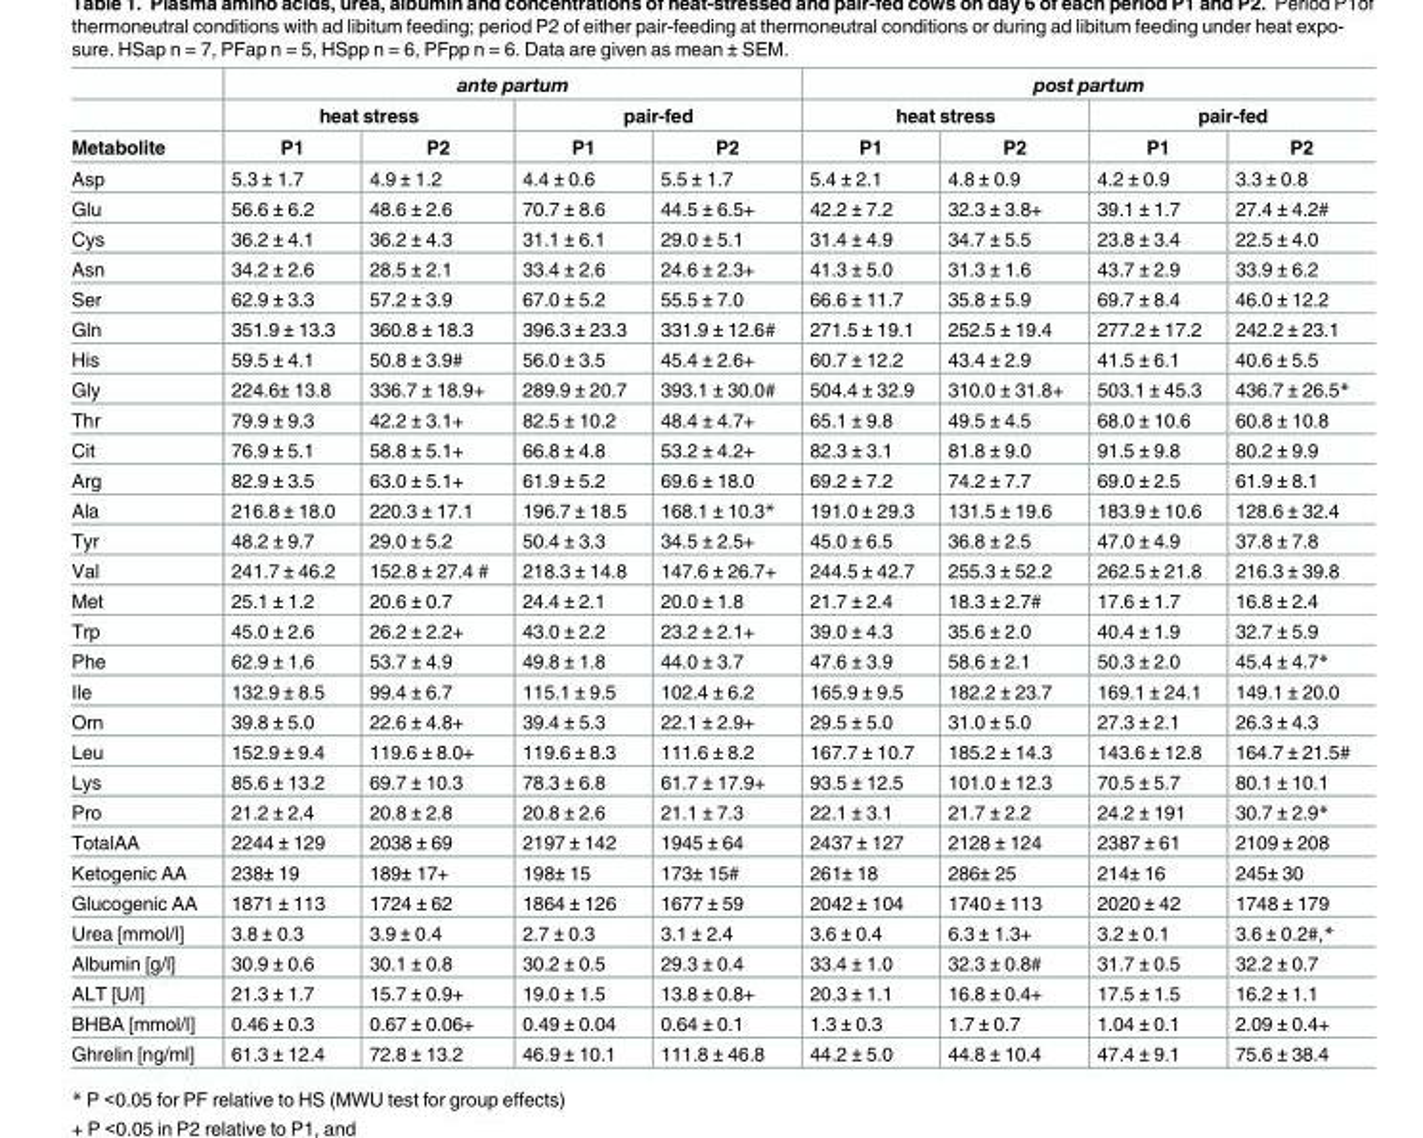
<table><thead><tr><td rowspan="3">Metabolite</td><td colspan="4">ante partum</td><td colspan="4">post partum</td></tr><tr><td colspan="2">heat stress</td><td colspan="2">pair-fed</td><td colspan="2">heat stress</td><td colspan="2">pair-fed</td></tr><tr><td>P1</td><td>P2</td><td>P1</td><td>P2</td><td>P1</td><td>P2</td><td>P1</td><td>P2</td></tr></thead><tbody><tr><td>Asp</td><td>5.3 ± 1.7</td><td>4.9 ± 1.2</td><td>4.4 ± 0.6</td><td>5.5 ± 1.7</td><td>5.4 ± 2.1</td><td>4.8 ± 0.9</td><td>4.2 ± 0.9</td><td>3.3 ± 0.8</td></tr><tr><td>Glu</td><td>56.6 ± 6.2</td><td>48.6 ± 2.6</td><td>70.7 ± 8.6</td><td>44.5 ± 6.5+</td><td>42.2 ± 7.2</td><td>32.3 ± 3.8+</td><td>39.1 ± 1.7</td><td>27.4 ± 4.2#</td></tr><tr><td>Cys</td><td>36.2 ± 4.1</td><td>36.2 ± 4.3</td><td>31.1 ± 6.1</td><td>29.0 ± 5.1</td><td>31.4 ± 4.9</td><td>34.7 ± 5.5</td><td>23.8 ± 3.4</td><td>22.5 ± 4.0</td></tr><tr><td>Asn</td><td>34.2 ± 2.6</td><td>28.5 ± 2.1</td><td>33.4 ± 2.6</td><td>24.6 ± 2.3+</td><td>41.3 ± 5.0</td><td>31.3 ± 1.6</td><td>43.7 ± 2.9</td><td>33.9 ± 6.2</td></tr><tr><td>Ser</td><td>62.9 ± 3.3</td><td>57.2 ± 3.9</td><td>67.0 ± 5.2</td><td>55.5 ± 7.0</td><td>66.6 ± 11.7</td><td>35.8 ± 5.9</td><td>69.7 ± 8.4</td><td>46.0 ± 12.2</td></tr><tr><td>Gln</td><td>351.9 ± 13.3</td><td>360.8 ± 18.3</td><td>396.3 ± 23.3</td><td>331.9 ± 12.6#</td><td>271.5 ± 19.1</td><td>252.5 ± 19.4</td><td>277.2 ± 17.2</td><td>242.2 ± 23.1</td></tr><tr><td>His</td><td>59.5 ± 4.1</td><td>50.8 ± 3.9#</td><td>56.0 ± 3.5</td><td>45.4 ± 2.6+</td><td>60.7 ± 12.2</td><td>43.4 ± 2.9</td><td>41.5 ± 6.1</td><td>40.6 ± 5.5</td></tr><tr><td>Gly</td><td>224.6± 13.8</td><td>336.7 ± 18.9+</td><td>289.9 ± 20.7</td><td>393.1 ± 30.0#</td><td>504.4 ± 32.9</td><td>310.0 ± 31.8+</td><td>503.1 ± 45.3</td><td>436.7 ± 26.5*</td></tr><tr><td>Thr</td><td>79.9 ± 9.3</td><td>42.2 ± 3.1+</td><td>82.5 ± 10.2</td><td>48.4 ± 4.7+</td><td>65.1 ± 9.8</td><td>49.5 ± 4.5</td><td>68.0 ± 10.6</td><td>60.8 ± 10.8</td></tr><tr><td>Cit</td><td>76.9 ± 5.1</td><td>58.8 ± 5.1+</td><td>66.8 ± 4.8</td><td>53.2 ± 4.2+</td><td>82.3 ± 3.1</td><td>81.8 ± 9.0</td><td>91.5 ± 9.8</td><td>80.2 ± 9.9</td></tr><tr><td>Arg</td><td>82.9 ± 3.5</td><td>63.0 ± 5.1+</td><td>61.9 ± 5.2</td><td>69.6 ± 18.0</td><td>69.2 ± 7.2</td><td>74.2 ± 7.7</td><td>69.0 ± 2.5</td><td>61.9 ± 8.1</td></tr><tr><td>Ala</td><td>216.8 ± 18.0</td><td>220.3 ± 17.1</td><td>196.7 ± 18.5</td><td>168.1 ± 10.3*</td><td>191.0 ± 29.3</td><td>131.5 ± 19.6</td><td>183.9 ± 10.6</td><td>128.6 ± 32.4</td></tr><tr><td>Tyr</td><td>48.2 ± 9.7</td><td>29.0 ± 5.2</td><td>50.4 ± 3.3</td><td>34.5 ± 2.5+</td><td>45.0 ± 6.5</td><td>36.8 ± 2.5</td><td>47.0 ± 4.9</td><td>37.8 ± 7.8</td></tr><tr><td>Val</td><td>241.7 ± 46.2</td><td>152.8 ± 27.4 #</td><td>218.3 ± 14.8</td><td>147.6 ± 26.7+</td><td>244.5 ± 42.7</td><td>255.3 ± 52.2</td><td>262.5 ± 21.8</td><td>216.3 ± 39.8</td></tr><tr><td>Met</td><td>25.1 ± 1.2</td><td>20.6 ± 0.7</td><td>24.4 ± 2.1</td><td>20.0 ± 1.8</td><td>21.7 ± 2.4</td><td>18.3 ± 2.7#</td><td>17.6 ± 1.7</td><td>16.8 ± 2.4</td></tr><tr><td>Trp</td><td>45.0 ± 2.6</td><td>26.2 ± 2.2+</td><td>43.0 ± 2.2</td><td>23.2 ± 2.1+</td><td>39.0 ± 4.3</td><td>35.6 ± 2.0</td><td>40.4 ± 1.9</td><td>32.7 ± 5.9</td></tr><tr><td>Phe</td><td>62.9 ± 1.6</td><td>53.7 ± 4.9</td><td>49.8 ± 1.8</td><td>44.0 ± 3.7</td><td>47.6 ± 3.9</td><td>58.6 ± 2.1</td><td>50.3 ± 2.0</td><td>45.4 ± 4.7*</td></tr><tr><td>Ile</td><td>132.9 ± 8.5</td><td>99.4 ± 6.7</td><td>115.1 ± 9.5</td><td>102.4 ± 6.2</td><td>165.9 ± 9.5</td><td>182.2 ± 23.7</td><td>169.1 ± 24.1</td><td>149.1 ± 20.0</td></tr><tr><td>Orn</td><td>39.8 ± 5.0</td><td>22.6 ± 4.8+</td><td>39.4 ± 5.3</td><td>22.1 ± 2.9+</td><td>29.5 ± 5.0</td><td>31.0 ± 5.0</td><td>27.3 ± 2.1</td><td>26.3 ± 4.3</td></tr><tr><td>Leu</td><td>152.9 ± 9.4</td><td>119.6 ± 8.0+</td><td>119.6 ± 8.3</td><td>111.6 ± 8.2</td><td>167.7 ± 10.7</td><td>185.2 ± 14.3</td><td>143.6 ± 12.8</td><td>164.7 ± 21.5#</td></tr><tr><td>Lys</td><td>85.6 ± 13.2</td><td>69.7 ± 10.3</td><td>78.3 ± 6.8</td><td>61.7 ± 17.9+</td><td>93.5 ± 12.5</td><td>101.0 ± 12.3</td><td>70.5 ± 5.7</td><td>80.1 ± 10.1</td></tr><tr><td>Pro</td><td>21.2 ± 2.4</td><td>20.8 ± 2.8</td><td>20.8 ± 2.6</td><td>21.1 ± 7.3</td><td>22.1 ± 3.1</td><td>21.7 ± 2.2</td><td>24.2 ± 191</td><td>30.7 ± 2.9*</td></tr><tr><td>TotalAA</td><td>2244 ± 129</td><td>2038 ± 69</td><td>2197 ± 142</td><td>1945 ± 64</td><td>2437 ± 127</td><td>2128 ± 124</td><td>2387 ± 61</td><td>2109 ± 208</td></tr><tr><td>Ketogenic AA</td><td>238± 19</td><td>189± 17+</td><td>198± 15</td><td>173± 15#</td><td>261± 18</td><td>286± 25</td><td>214± 16</td><td>245± 30</td></tr><tr><td>Glucogenic AA</td><td>1871 ± 113</td><td>1724 ± 62</td><td>1864 ± 126</td><td>1677 ± 59</td><td>2042 ± 104</td><td>1740 ± 113</td><td>2020 ± 42</td><td>1748 ± 179</td></tr><tr><td>Urea [mmol/l]</td><td>3.8 ± 0.3</td><td>3.9 ± 0.4</td><td>2.7 ± 0.3</td><td>3.1 ± 2.4</td><td>3.6 ± 0.4</td><td>6.3 ± 1.3+</td><td>3.2 ± 0.1</td><td>3.6 ± 0.2#,*</td></tr><tr><td>Albumin [g/l]</td><td>30.9 ± 0.6</td><td>30.1 ± 0.8</td><td>30.2 ± 0.5</td><td>29.3 ± 0.4</td><td>33.4 ± 1.0</td><td>32.3 ± 0.8#</td><td>31.7 ± 0.5</td><td>32.2 ± 0.7</td></tr><tr><td>ALT [U/l]</td><td>21.3 ± 1.7</td><td>15.7 ± 0.9+</td><td>19.0 ± 1.5</td><td>13.8 ± 0.8+</td><td>20.3 ± 1.1</td><td>16.8 ± 0.4+</td><td>17.5 ± 1.5</td><td>16.2 ± 1.1</td></tr><tr><td>BHBA [mmol/l]</td><td>0.46 ± 0.3</td><td>0.67 ± 0.06+</td><td>0.49 ± 0.04</td><td>0.64 ± 0.1</td><td>1.3 ± 0.3</td><td>1.7 ± 0.7</td><td>1.04 ± 0.1</td><td>2.09 ± 0.4+</td></tr><tr><td>Ghrelin [ng/ml]</td><td>61.3 ± 12.4</td><td>72.8 ± 13.2</td><td>46.9 ± 10.1</td><td>111.8 ± 46.8</td><td>44.2 ± 5.0</td><td>44.8 ± 10.4</td><td>47.4 ± 9.1</td><td>75.6 ± 38.4</td></tr></tbody></table>